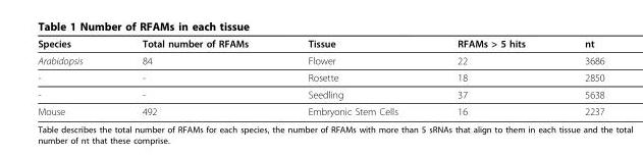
<table><thead><tr><td>Species</td><td>Total number of RFAMs</td><td>Tissue</td><td>RFAMs &gt; 5 hits</td><td>nt</td></tr></thead><tbody><tr><td>Arabidopsis</td><td>84</td><td>Flower</td><td>22</td><td>3686</td></tr><tr><td>-</td><td>-</td><td>Rosette</td><td>18</td><td>2850</td></tr><tr><td>-</td><td>-</td><td>Seedling</td><td>37</td><td>5638</td></tr><tr><td>Mouse</td><td>492</td><td>Embryonic Stem Cells</td><td>16</td><td>2237</td></tr></tbody></table>